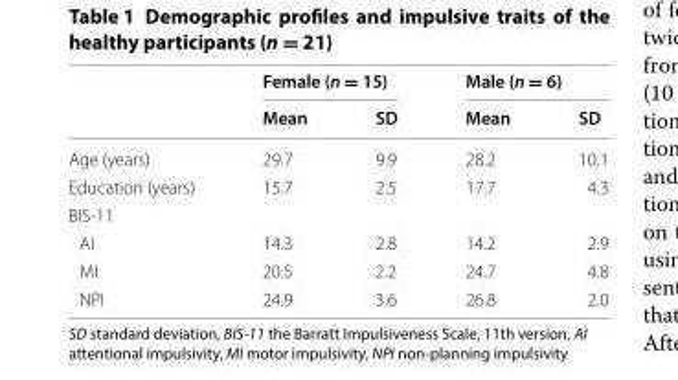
<table><thead><tr><td rowspan="2"></td><td colspan="2">Female (n = 15)</td><td colspan="2">Male (n = 6)</td></tr><tr><td>Mean</td><td>SD</td><td>Mean</td><td>SD</td></tr></thead><tbody><tr><td>Age (years)</td><td>29.7</td><td>9.9</td><td>28.2</td><td>10.1</td></tr><tr><td>Education (years)</td><td>15.7</td><td>2.5</td><td>17.7</td><td>4.3</td></tr><tr><td colspan="5">BIS-11</td></tr><tr><td>AI</td><td>14.3</td><td>2.8</td><td>14.2</td><td>2.9</td></tr><tr><td>MI</td><td>20.5</td><td>2.2</td><td>24.7</td><td>4.8</td></tr><tr><td>NPI</td><td>24.9</td><td>3.6</td><td>26.8</td><td>2.0</td></tr></tbody></table>